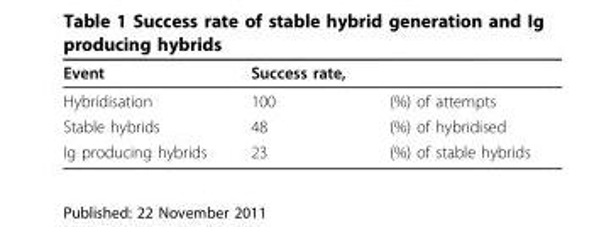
<table><thead><tr><td>Event</td><td>Success rate,</td><td></td></tr></thead><tbody><tr><td>Hybridisation</td><td>100</td><td>(%) of attempts</td></tr><tr><td>Stable hybrids</td><td>48</td><td>(%) of hybridised</td></tr><tr><td>Ig producing hybrids</td><td>23</td><td>(%) of stable hybrids</td></tr></tbody></table>